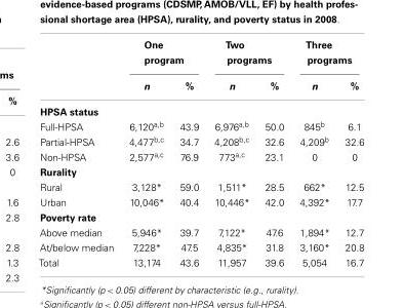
<table><thead><tr><td rowspan="2"></td><td colspan="2">One program</td><td colspan="2">Two programs</td><td colspan="2">Three programs</td></tr><tr><td>n</td><td>%</td><td>n</td><td>%</td><td>n</td><td>%</td></tr></thead><tbody><tr><td colspan="7">HPSA status</td></tr><tr><td>Full-HPSA</td><td>6,120<sup>a,b</sup></td><td>43.9</td><td>6,976<sup>a,b</sup></td><td>50.0</td><td>845<sup>b</sup></td><td>6.1</td></tr><tr><td>Partial-HPSA</td><td>4,477<sup>b,c</sup></td><td>34.7</td><td>4,208<sup>b,c</sup></td><td>32.6</td><td>4,209<sup>b</sup></td><td>32.6</td></tr><tr><td>Non-HPSA</td><td>2,577<sup>a,c</sup></td><td>76.9</td><td>773<sup>a,c</sup></td><td>23.1</td><td>0</td><td>0</td></tr><tr><td colspan="7">Rurality</td></tr><tr><td>Rural</td><td>3,128*</td><td>59.0</td><td>1,511*</td><td>28.5</td><td>662*</td><td>12.5</td></tr><tr><td>Urban</td><td>10,046*</td><td>40.4</td><td>10,446*</td><td>42.0</td><td>4,392*</td><td>17.7</td></tr><tr><td colspan="7">Poverty rate</td></tr><tr><td>Above median</td><td>5,946*</td><td>39.7</td><td>7,122*</td><td>47.6</td><td>1,894*</td><td>12.7</td></tr><tr><td>At/below median</td><td>7,228*</td><td>47.5</td><td>4,835*</td><td>31.8</td><td>3,160*</td><td>20.8</td></tr><tr><td>Total</td><td>13,174</td><td>43.6</td><td>11,957</td><td>39.6</td><td>5,054</td><td>16.7</td></tr></tbody></table>